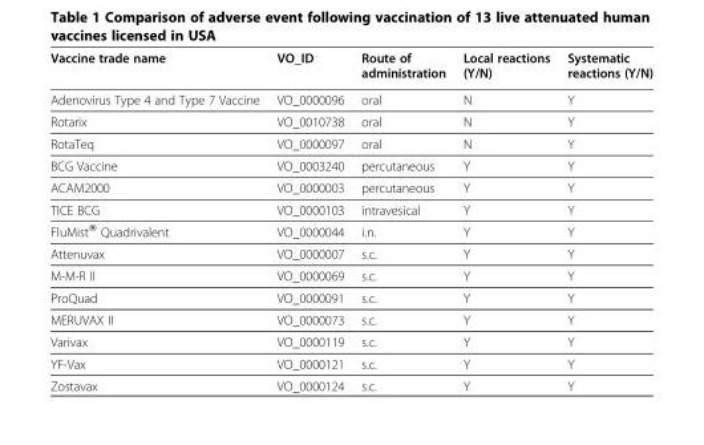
<table><thead><tr><td>Vaccine trade name</td><td>VO_ID</td><td>Route of administration</td><td>Local reactions (Y/N)</td><td>Systematic reactions (Y/N)</td></tr></thead><tbody><tr><td>Adenovirus Type 4 and Type 7 Vaccine</td><td>VO_0000096</td><td>oral</td><td>N</td><td>Y</td></tr><tr><td>Rotarix</td><td>VO_0010738</td><td>oral</td><td>N</td><td>Y</td></tr><tr><td>RotaTeq</td><td>VO_0000097</td><td>oral</td><td>N</td><td>Y</td></tr><tr><td>BCG Vaccine</td><td>VO_0003240</td><td>percutaneous</td><td>Y</td><td>Y</td></tr><tr><td>ACAM2000</td><td>VO_0000003</td><td>percutaneous</td><td>Y</td><td>Y</td></tr><tr><td>TICE BCG</td><td>VO_0000103</td><td>intravesical</td><td>Y</td><td>Y</td></tr><tr><td>FluMist® Quadrivalent</td><td>VO_0000044</td><td>i.n.</td><td>Y</td><td>Y</td></tr><tr><td>Attenuvax</td><td>VO_0000007</td><td>s.c.</td><td>Y</td><td>Y</td></tr><tr><td>M-M-R II</td><td>VO_0000069</td><td>s.c.</td><td>Y</td><td>Y</td></tr><tr><td>ProQuad</td><td>VO_0000091</td><td>s.c.</td><td>Y</td><td>Y</td></tr><tr><td>MERUVAX II</td><td>VO_0000073</td><td>s.c.</td><td>Y</td><td>Y</td></tr><tr><td>Varivax</td><td>VO_0000119</td><td>s.c.</td><td>Y</td><td>Y</td></tr><tr><td>YF-Vax</td><td>VO_0000121</td><td>s.c.</td><td>Y</td><td>Y</td></tr><tr><td>Zostavax</td><td>VO_0000124</td><td>s.c.</td><td>Y</td><td>Y</td></tr></tbody></table>